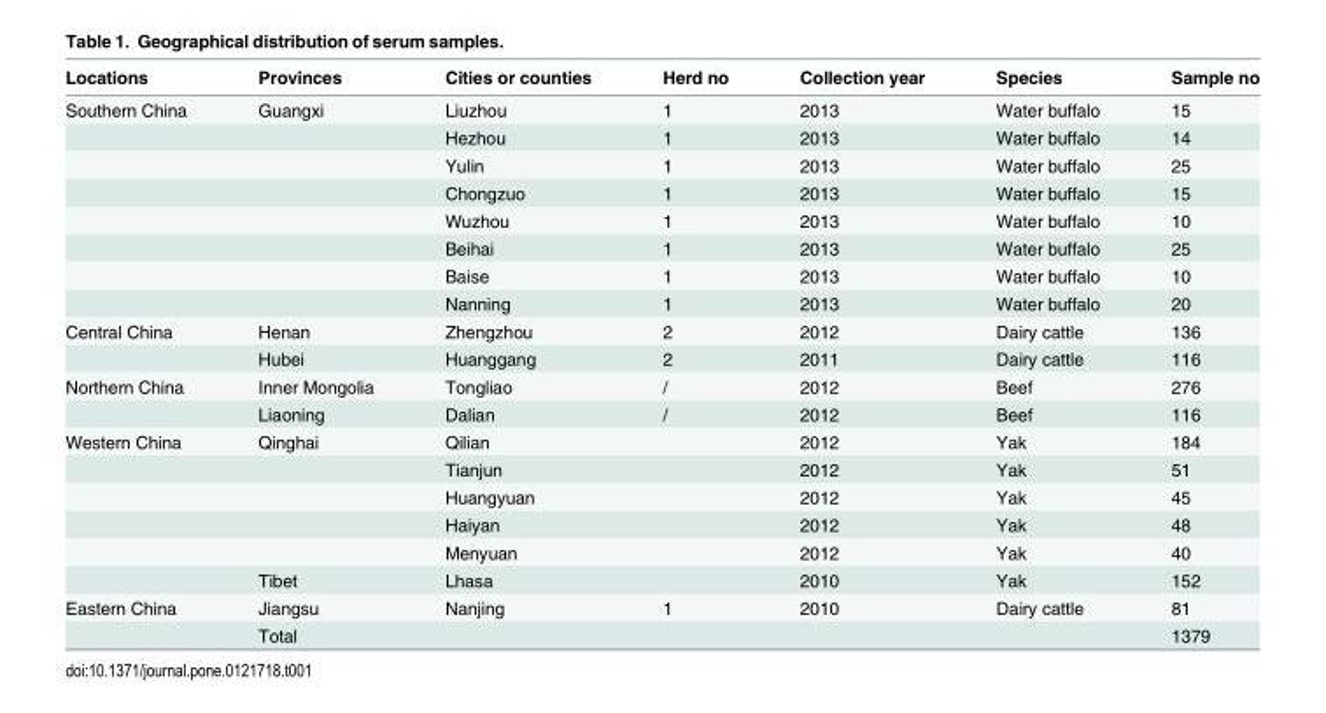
<table><thead><tr><td>Locations</td><td>Provinces</td><td>Cities or counties</td><td>Herd no</td><td>Collection year</td><td>Species</td><td>Sample no</td></tr></thead><tbody><tr><td rowspan="8">Southern China</td><td>Guangxi</td><td>Liuzhou</td><td>1</td><td>2013</td><td>Water buffalo</td><td>15</td></tr><tr><td></td><td>Hezhou</td><td>1</td><td>2013</td><td>Water buffalo</td><td>14</td></tr><tr><td></td><td>Yulin</td><td>1</td><td>2013</td><td>Water buffalo</td><td>25</td></tr><tr><td></td><td>Chongzuo</td><td>1</td><td>2013</td><td>Water buffalo</td><td>15</td></tr><tr><td></td><td>Wuzhou</td><td>1</td><td>2013</td><td>Water buffalo</td><td>10</td></tr><tr><td></td><td>Beihai</td><td>1</td><td>2013</td><td>Water buffalo</td><td>25</td></tr><tr><td></td><td>Baise</td><td>1</td><td>2013</td><td>Water buffalo</td><td>10</td></tr><tr><td></td><td>Nanning</td><td>1</td><td>2013</td><td>Water buffalo</td><td>20</td></tr><tr><td rowspan="2">Central China</td><td>Henan</td><td>Zhengzhou</td><td>2</td><td>2012</td><td>Dairy cattle</td><td>136</td></tr><tr><td>Hubei</td><td>Huanggang</td><td>2</td><td>2011</td><td>Dairy cattle</td><td>116</td></tr><tr><td rowspan="2">Northern China</td><td>Inner Mongolia</td><td>Tongliao</td><td>/</td><td>2012</td><td>Beef</td><td>276</td></tr><tr><td>Liaoning</td><td>Dalian</td><td>/</td><td>2012</td><td>Beef</td><td>116</td></tr><tr><td rowspan="6">Western China</td><td>Qinghai</td><td>Qilian</td><td></td><td>2012</td><td>Yak</td><td>184</td></tr><tr><td></td><td>Tianjun</td><td></td><td>2012</td><td>Yak</td><td>51</td></tr><tr><td></td><td>Huangyuan</td><td></td><td>2012</td><td>Yak</td><td>45</td></tr><tr><td></td><td>Haiyan</td><td></td><td>2012</td><td>Yak</td><td>48</td></tr><tr><td></td><td>Menyuan</td><td></td><td>2012</td><td>Yak</td><td>40</td></tr><tr><td>Tibet</td><td>Lhasa</td><td></td><td>2010</td><td>Yak</td><td>152</td></tr><tr><td rowspan="2">Eastern China</td><td>Jiangsu</td><td>Nanjing</td><td>1</td><td>2010</td><td>Dairy cattle</td><td>81</td></tr><tr><td>Total</td><td></td><td></td><td></td><td></td><td>1379</td></tr></tbody></table>